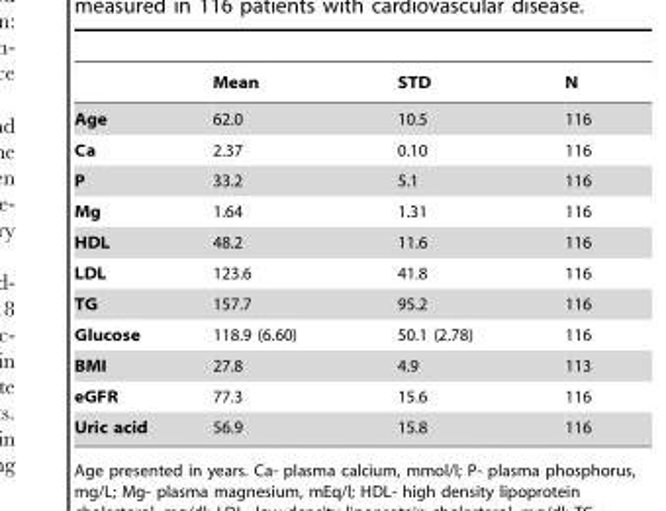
<table><thead><tr><td></td><td>Mean</td><td>STD</td><td>N</td></tr></thead><tbody><tr><td>Age</td><td>62.0</td><td>10.5</td><td>116</td></tr><tr><td>Ca</td><td>2.37</td><td>0.10</td><td>116</td></tr><tr><td>P</td><td>33.2</td><td>5.1</td><td>116</td></tr><tr><td>Mg</td><td>1.64</td><td>1.31</td><td>116</td></tr><tr><td>HDL</td><td>48.2</td><td>11.6</td><td>116</td></tr><tr><td>LDL</td><td>123.6</td><td>41.8</td><td>116</td></tr><tr><td>TG</td><td>157.7</td><td>95.2</td><td>116</td></tr><tr><td>Glucose</td><td>118.9 (6.60)</td><td>50.1 (2.78)</td><td>116</td></tr><tr><td>BMI</td><td>27.8</td><td>4.9</td><td>113</td></tr><tr><td>eGFR</td><td>77.3</td><td>15.6</td><td>116</td></tr><tr><td>Uric acid</td><td>56.9</td><td>15.8</td><td>116</td></tr></tbody></table>